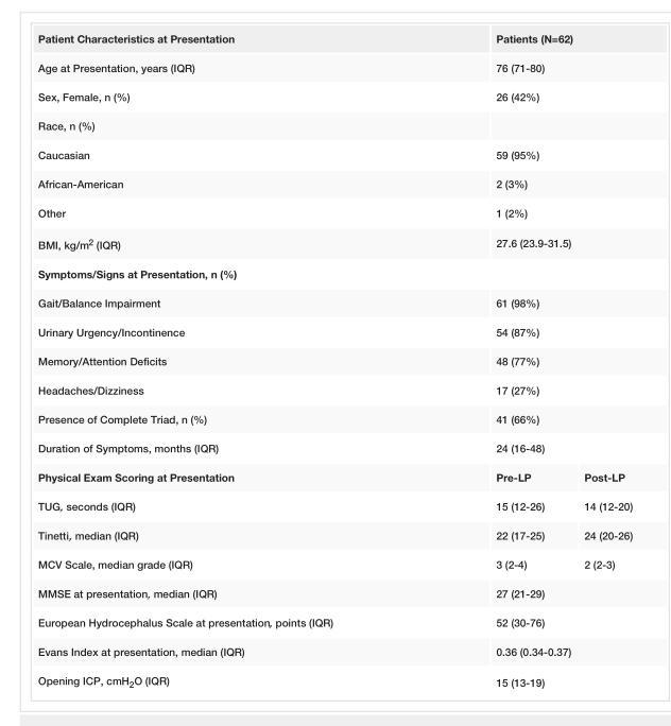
<table><tbody><tr><td>Patient Characteristics at Presentation</td><td colspan="2">Patients (N=62)</td></tr><tr><td>Age at Presentation, years (IQR)</td><td colspan="2">76 (71-80)</td></tr><tr><td>Sex, Female, n (%)</td><td colspan="2">26 (42%)</td></tr><tr><td colspan="3">Race, n (%)</td></tr><tr><td>Caucasian</td><td colspan="2">59 (95%)</td></tr><tr><td>African-American</td><td colspan="2">2 (3%)</td></tr><tr><td>Other</td><td colspan="2">1 (2%)</td></tr><tr><td>BMI, kg/m<sup>2</sup> (IQR)</td><td colspan="2">27.6 (23.9-31.5)</td></tr><tr><td colspan="3">Symptoms/Signs at Presentation, n (%)</td></tr><tr><td>Gait/Balance Impairment</td><td colspan="2">61 (98%)</td></tr><tr><td>Urinary Urgency/Incontinence</td><td colspan="2">54 (87%)</td></tr><tr><td>Memory/Attention Deficits</td><td colspan="2">48 (77%)</td></tr><tr><td>Headaches/Dizziness</td><td colspan="2">17 (27%)</td></tr><tr><td>Presence of Complete Triad, n (%)</td><td colspan="2">41 (66%)</td></tr><tr><td>Duration of Symptoms, months (IQR)</td><td colspan="2">24 (16-48)</td></tr><tr><td>Physical Exam Scoring at Presentation</td><td>Pre-LP</td><td>Post-LP</td></tr><tr><td>TUG, seconds (IQR)</td><td>15 (12-26)</td><td>14 (12-20)</td></tr><tr><td>Tinetti, median (IQR)</td><td>22 (17-25)</td><td>24 (20-26)</td></tr><tr><td>MCV Scale, median grade (IQR)</td><td>3 (2-4)</td><td>2 (2-3)</td></tr><tr><td>MMSE at presentation, median (IQR)</td><td colspan="2">27 (21-29)</td></tr><tr><td>European Hydrocephalus Scale at presentation, points (IQR)</td><td colspan="2">52 (30-76)</td></tr><tr><td>Evans Index at presentation, median (IQR)</td><td colspan="2">0.36 (0.34-0.37)</td></tr><tr><td>Opening ICP, cmH<sub>2</sub>O (IQR)</td><td colspan="2">15 (13-19)</td></tr></tbody></table>